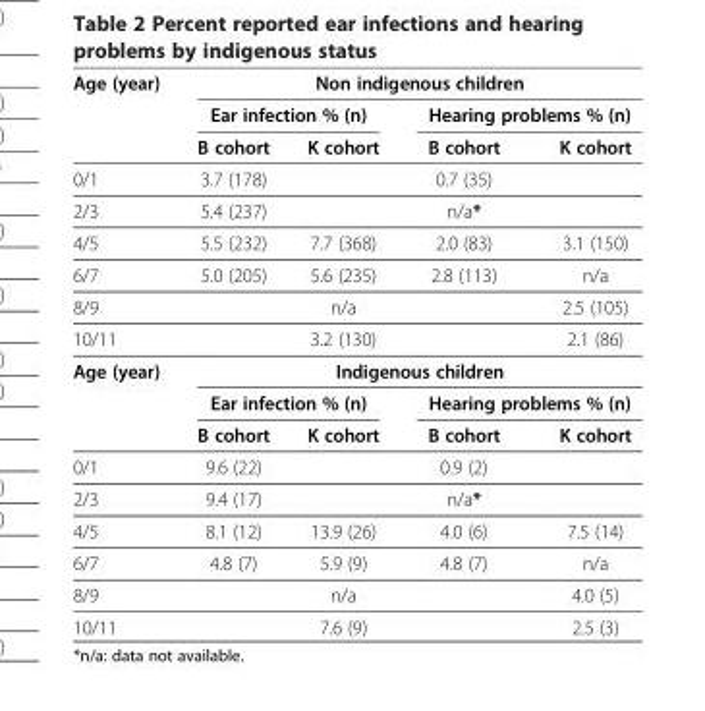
<table><thead><tr><td rowspan="3">Age (year)</td><td colspan="4">Non indigenous children</td></tr><tr><td colspan="2">Ear infection % (n)</td><td colspan="2">Hearing problems % (n)</td></tr><tr><td>B cohort</td><td>K cohort</td><td>B cohort</td><td>K cohort</td></tr></thead><tbody><tr><td>0/1</td><td>3.7 (178)</td><td></td><td>0.7 (35)</td><td></td></tr><tr><td>2/3</td><td>5.4 (237)</td><td></td><td>n/a*</td><td></td></tr><tr><td>4/5</td><td>5.5 (232)</td><td>7.7 (368)</td><td>2.0 (83)</td><td>3.1 (150)</td></tr><tr><td>6/7</td><td>5.0 (205)</td><td>5.6 (235)</td><td>2.8 (113)</td><td>n/a</td></tr><tr><td>8/9</td><td></td><td>n/a</td><td></td><td>2.5 (105)</td></tr><tr><td>10/11</td><td></td><td>3.2 (130)</td><td></td><td>2.1 (86)</td></tr><tr><td rowspan="3">Age (year)</td><td colspan="4">Indigenous children</td></tr><tr><td colspan="2">Ear infection % (n)</td><td colspan="2">Hearing problems % (n)</td></tr><tr><td>B cohort</td><td>K cohort</td><td>B cohort</td><td>K cohort</td></tr><tr><td>0/1</td><td>9.6 (22)</td><td></td><td>0.9 (2)</td><td></td></tr><tr><td>2/3</td><td>9.4 (17)</td><td></td><td>n/a*</td><td></td></tr><tr><td>4/5</td><td>8.1 (12)</td><td>13.9 (26)</td><td>4.0 (6)</td><td>7.5 (14)</td></tr><tr><td>6/7</td><td>4.8 (7)</td><td>5.9 (9)</td><td>4.8 (7)</td><td>n/a</td></tr><tr><td>8/9</td><td></td><td>n/a</td><td></td><td>4.0 (5)</td></tr><tr><td>10/11</td><td></td><td>7.6 (9)</td><td></td><td>2.5 (3)</td></tr></tbody></table>